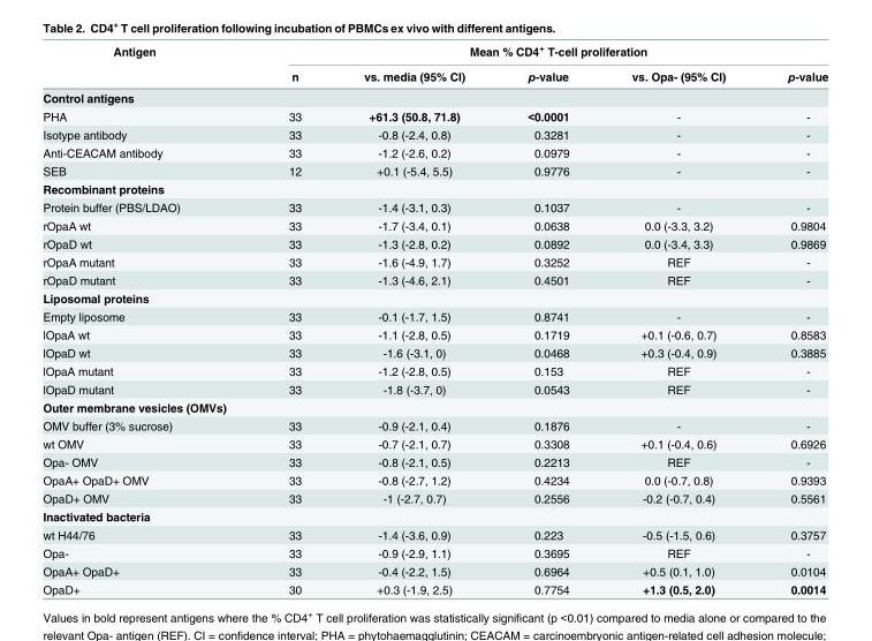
<table><thead><tr><td rowspan="2">Antigen</td><td colspan="5">Mean % CD4<sup>+</sup> T-cell proliferation</td></tr><tr><td>n</td><td>vs. media (95% CI)</td><td>p-value</td><td>vs. Opa- (95% CI)</td><td>p-value</td></tr></thead><tbody><tr><td colspan="6">Control antigens</td></tr><tr><td>PHA</td><td>33</td><td>+61.3 (50.8, 71.8)</td><td>&lt;0.0001</td><td>-</td><td>-</td></tr><tr><td>Isotype antibody</td><td>33</td><td>-0.8 (-2.4, 0.8)</td><td>0.3281</td><td>-</td><td>-</td></tr><tr><td>Anti-CEACAM antibody</td><td>33</td><td>-1.2 (-2.6, 0.2)</td><td>0.0979</td><td>-</td><td>-</td></tr><tr><td>SEB</td><td>12</td><td>+0.1 (-5.4, 5.5)</td><td>0.9776</td><td>-</td><td>-</td></tr><tr><td colspan="6">Recombinant proteins</td></tr><tr><td>Protein buffer (PBS/LDAO)</td><td>33</td><td>-1.4 (-3.1, 0.3)</td><td>0.1037</td><td>-</td><td>-</td></tr><tr><td>rOpaA wt</td><td>33</td><td>-1.7 (-3.4, 0.1)</td><td>0.0638</td><td>0.0 (-3.3, 3.2)</td><td>0.9804</td></tr><tr><td>rOpaD wt</td><td>33</td><td>-1.3 (-2.8, 0.2)</td><td>0.0892</td><td>0.0 (-3.4, 3.3)</td><td>0.9869</td></tr><tr><td>rOpaA mutant</td><td>33</td><td>-1.6 (-4.9, 1.7)</td><td>0.3252</td><td>REF</td><td>-</td></tr><tr><td>rOpaD mutant</td><td>33</td><td>-1.3 (-4.6, 2.1)</td><td>0.4501</td><td>REF</td><td>-</td></tr><tr><td colspan="6">Liposomal proteins</td></tr><tr><td>Empty liposome</td><td>33</td><td>-0.1 (-1.7, 1.5)</td><td>0.8741</td><td>-</td><td>-</td></tr><tr><td>lOpaA wt</td><td>33</td><td>-1.1 (-2.8, 0.5)</td><td>0.1719</td><td>+0.1 (-0.6, 0.7)</td><td>0.8583</td></tr><tr><td>lOpaD wt</td><td>33</td><td>-1.6 (-3.1, 0)</td><td>0.0468</td><td>+0.3 (-0.4, 0.9)</td><td>0.3885</td></tr><tr><td>lOpaA mutant</td><td>33</td><td>-1.2 (-2.8, 0.5)</td><td>0.153</td><td>REF</td><td>-</td></tr><tr><td>lOpaD mutant</td><td>33</td><td>-1.8 (-3.7, 0)</td><td>0.0543</td><td>REF</td><td>-</td></tr><tr><td colspan="6">Outer membrane vesicles (OMVs)</td></tr><tr><td>OMV buffer (3% sucrose)</td><td>33</td><td>-0.9 (-2.1, 0.4)</td><td>0.1876</td><td>-</td><td>-</td></tr><tr><td>wt OMV</td><td>33</td><td>-0.7 (-2.1, 0.7)</td><td>0.3308</td><td>+0.1 (-0.4, 0.6)</td><td>0.6926</td></tr><tr><td>Opa- OMV</td><td>33</td><td>-0.8 (-2.1, 0.5)</td><td>0.2213</td><td>REF</td><td>-</td></tr><tr><td>OpaA+ OpaD+ OMV</td><td>33</td><td>-0.8 (-2.7, 1.2)</td><td>0.4234</td><td>0.0 (-0.7, 0.8)</td><td>0.9393</td></tr><tr><td>OpaD+ OMV</td><td>33</td><td>-1 (-2.7, 0.7)</td><td>0.2556</td><td>-0.2 (-0.7, 0.4)</td><td>0.5561</td></tr><tr><td colspan="6">Inactivated bacteria</td></tr><tr><td>wt H44/76</td><td>33</td><td>-1.4 (-3.6, 0.9)</td><td>0.223</td><td>-0.5 (-1.5, 0.6)</td><td>0.3757</td></tr><tr><td>Opa-</td><td>33</td><td>-0.9 (-2.9, 1.1)</td><td>0.3695</td><td>REF</td><td>-</td></tr><tr><td>OpaA+ OpaD+</td><td>33</td><td>-0.4 (-2.2, 1.5)</td><td>0.6964</td><td>+0.5 (0.1, 1.0)</td><td>0.0104</td></tr><tr><td>OpaD+</td><td>30</td><td>+0.3 (-1.9, 2.5)</td><td>0.7754</td><td>+1.3 (0.5, 2.0)</td><td>0.0014</td></tr></tbody></table>